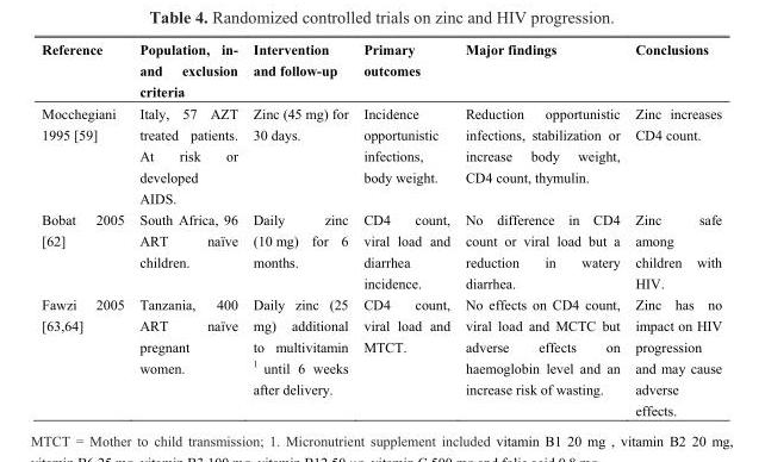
<table><thead><tr><td>Reference</td><td>Population, in- and exclusion criteria</td><td>Intervention and follow-up</td><td>Primary outcomes</td><td>Major findings</td><td>Conclusions</td></tr></thead><tbody><tr><td>Mocchegiani 1995 [59]</td><td>Italy, 57 AZT treated patients. At risk or developed AIDS.</td><td>Zinc (45 mg) for 30 days.</td><td>Incidence opportunistic infections, body weight.</td><td>Reduction opportunistic infections, stabilization or increase body weight, CD4 count, thymulin.</td><td>Zinc increases CD4 count.</td></tr><tr><td>Bobat 2005 [62]</td><td>South Africa, 96 ART naïve children.</td><td>Daily zinc (10 mg) for 6 months.</td><td>CD4 count, viral load and diarrhea incidence.</td><td>No difference in CD4 count or viral load but a reduction in watery diarrhea.</td><td>Zinc safe among children with HIV.</td></tr><tr><td>Fawzi 2005 [63,64]</td><td>Tanzania, 400 ART naïve pregnant women.</td><td>Daily zinc (25 mg) additional to multivitamin <sup>1</sup> until 6 weeks after delivery.</td><td>CD4 count, viral load and MTCT.</td><td>No effects on CD4 count, viral load and MCTC but adverse effects on haemoglobin level and an increase risk of wasting.</td><td>Zinc has no impact on HIV progression and may cause adverse effects.</td></tr></tbody></table>